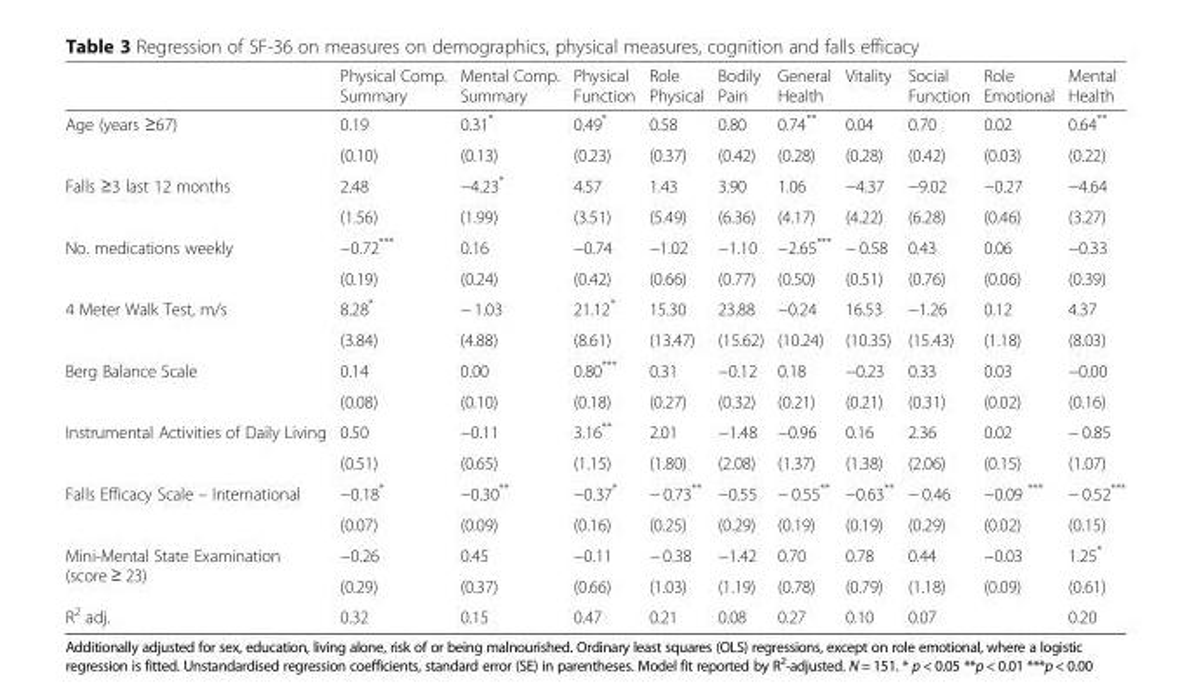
<table><thead><tr><td></td><td>Physical Comp. Summary</td><td>Mental Comp. Summary</td><td>Physical Function</td><td>Role Physical</td><td>Bodily Pain</td><td>General Health</td><td>Vitality</td><td>Social Function</td><td>Role Emotional</td><td>Mental Health</td></tr></thead><tbody><tr><td rowspan="2">Age (years ≥67)</td><td>0.19</td><td>0.31*</td><td>0.49*</td><td>0.58</td><td>0.80</td><td>0.74**</td><td>0.04</td><td>0.70</td><td>0.02</td><td>0.64**</td></tr><tr><td>(0.10)</td><td>(0.13)</td><td>(0.23)</td><td>(0.37)</td><td>(0.42)</td><td>(0.28)</td><td>(0.28)</td><td>(0.42)</td><td>(0.03)</td><td>(0.22)</td></tr><tr><td rowspan="2">Falls ≥3 last 12 months</td><td>2.48</td><td>−4.23*</td><td>4.57</td><td>1.43</td><td>3.90</td><td>1.06</td><td>−4.37</td><td>−9.02</td><td>−0.27</td><td>−4.64</td></tr><tr><td>(1.56)</td><td>(1.99)</td><td>(3.51)</td><td>(5.49)</td><td>(6.36)</td><td>(4.17)</td><td>(4.22)</td><td>(6.28)</td><td>(0.46)</td><td>(3.27)</td></tr><tr><td rowspan="2">No. medications weekly</td><td>−0.72***</td><td>0.16</td><td>−0.74</td><td>−1.02</td><td>−1.10</td><td>−2.65***</td><td>− 0.58</td><td>0.43</td><td>0.06</td><td>−0.33</td></tr><tr><td>(0.19)</td><td>(0.24)</td><td>(0.42)</td><td>(0.66)</td><td>(0.77)</td><td>(0.50)</td><td>(0.51)</td><td>(0.76)</td><td>(0.06)</td><td>(0.39)</td></tr><tr><td rowspan="2">4 Meter Walk Test, m/s</td><td>8.28*</td><td>− 1.03</td><td>21.12*</td><td>15.30</td><td>23.88</td><td>−0.24</td><td>16.53</td><td>−1.26</td><td>0.12</td><td>4.37</td></tr><tr><td>(3.84)</td><td>(4.88)</td><td>(8.61)</td><td>(13.47)</td><td>(15.62)</td><td>(10.24)</td><td>(10.35)</td><td>(15.43)</td><td>(1.18)</td><td>(8.03)</td></tr><tr><td rowspan="2">Berg Balance Scale</td><td>0.14</td><td>0.00</td><td>0.80***</td><td>0.31</td><td>−0.12</td><td>0.18</td><td>−0.23</td><td>0.33</td><td>0.03</td><td>−0.00</td></tr><tr><td>(0.08)</td><td>(0.10)</td><td>(0.18)</td><td>(0.27)</td><td>(0.32)</td><td>(0.21)</td><td>(0.21)</td><td>(0.31)</td><td>(0.02)</td><td>(0.16)</td></tr><tr><td rowspan="2">Instrumental Activities of Daily Living</td><td>0.50</td><td>−0.11</td><td>3.16**</td><td>2.01</td><td>−1.48</td><td>−0.96</td><td>0.16</td><td>2.36</td><td>0.02</td><td>− 0.85</td></tr><tr><td>(0.51)</td><td>(0.65)</td><td>(1.15)</td><td>(1.80)</td><td>(2.08)</td><td>(1.37)</td><td>(1.38)</td><td>(2.06)</td><td>(0.15)</td><td>(1.07)</td></tr><tr><td rowspan="2">Falls Efficacy Scale – International</td><td>−0.18*</td><td>−0.30**</td><td>−0.37*</td><td>− 0.73**</td><td>−0.55</td><td>− 0.55**</td><td>−0.63**</td><td>− 0.46</td><td>−0.09 ***</td><td>− 0.52***</td></tr><tr><td>(0.07)</td><td>(0.09)</td><td>(0.16)</td><td>(0.25)</td><td>(0.29)</td><td>(0.19)</td><td>(0.19)</td><td>(0.29)</td><td>(0.02)</td><td>(0.15)</td></tr><tr><td rowspan="2">Mini-Mental State Examination (score ≥ 23)</td><td>−0.26</td><td>0.45</td><td>−0.11</td><td>− 0.38</td><td>−1.42</td><td>0.70</td><td>0.78</td><td>0.44</td><td>−0.03</td><td>1.25*</td></tr><tr><td>(0.29)</td><td>(0.37)</td><td>(0.66)</td><td>(1.03)</td><td>(1.19)</td><td>(0.78)</td><td>(0.79)</td><td>(1.18)</td><td>(0.09)</td><td>(0.61)</td></tr><tr><td>R<sup>2</sup> adj.</td><td>0.32</td><td>0.15</td><td>0.47</td><td>0.21</td><td>0.08</td><td>0.27</td><td>0.10</td><td>0.07</td><td></td><td>0.20</td></tr></tbody></table>